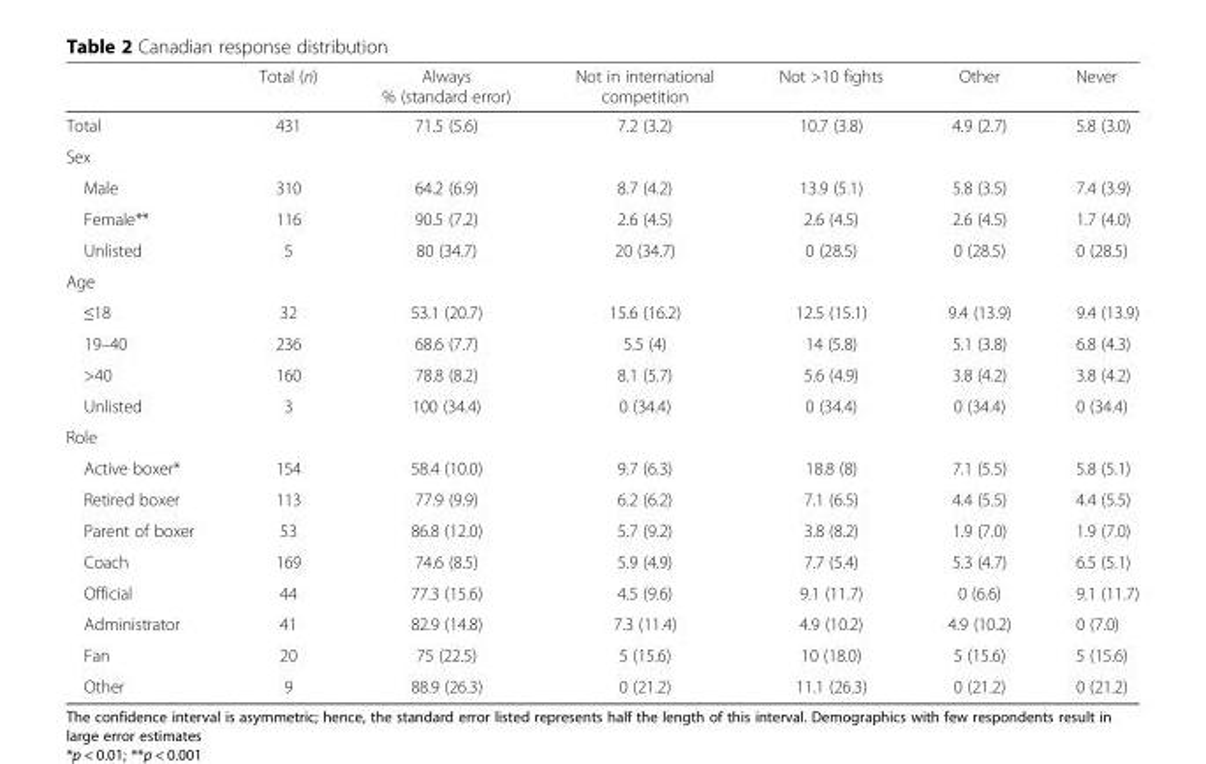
<table><thead><tr><td></td><td>Total (n)</td><td>Always % (standard error)</td><td>Not in international competition</td><td>Not &gt;10 fights</td><td>Other</td><td>Never</td></tr></thead><tbody><tr><td>Total</td><td>431</td><td>71.5 (5.6)</td><td>7.2 (3.2)</td><td>10.7 (3.8)</td><td>4.9 (2.7)</td><td>5.8 (3.0)</td></tr><tr><td colspan="7">Sex</td></tr><tr><td>Male</td><td>310</td><td>64.2 (6.9)</td><td>8.7 (4.2)</td><td>13.9 (5.1)</td><td>5.8 (3.5)</td><td>7.4 (3.9)</td></tr><tr><td>Female**</td><td>116</td><td>90.5 (7.2)</td><td>2.6 (4.5)</td><td>2.6 (4.5)</td><td>2.6 (4.5)</td><td>1.7 (4.0)</td></tr><tr><td>Unlisted</td><td>5</td><td>80 (34.7)</td><td>20 (34.7)</td><td>0 (28.5)</td><td>0 (28.5)</td><td>0 (28.5)</td></tr><tr><td colspan="7">Age</td></tr><tr><td>≤18</td><td>32</td><td>53.1 (20.7)</td><td>15.6 (16.2)</td><td>12.5 (15.1)</td><td>9.4 (13.9)</td><td>9.4 (13.9)</td></tr><tr><td>19–40</td><td>236</td><td>68.6 (7.7)</td><td>5.5 (4)</td><td>14 (5.8)</td><td>5.1 (3.8)</td><td>6.8 (4.3)</td></tr><tr><td>&gt;40</td><td>160</td><td>78.8 (8.2)</td><td>8.1 (5.7)</td><td>5.6 (4.9)</td><td>3.8 (4.2)</td><td>3.8 (4.2)</td></tr><tr><td>Unlisted</td><td>3</td><td>100 (34.4)</td><td>0 (34.4)</td><td>0 (34.4)</td><td>0 (34.4)</td><td>0 (34.4)</td></tr><tr><td colspan="7">Role</td></tr><tr><td>Active boxer*</td><td>154</td><td>58.4 (10.0)</td><td>9.7 (6.3)</td><td>18.8 (8)</td><td>7.1 (5.5)</td><td>5.8 (5.1)</td></tr><tr><td>Retired boxer</td><td>113</td><td>77.9 (9.9)</td><td>6.2 (6.2)</td><td>7.1 (6.5)</td><td>4.4 (5.5)</td><td>4.4 (5.5)</td></tr><tr><td>Parent of boxer</td><td>53</td><td>86.8 (12.0)</td><td>5.7 (9.2)</td><td>3.8 (8.2)</td><td>1.9 (7.0)</td><td>1.9 (7.0)</td></tr><tr><td>Coach</td><td>169</td><td>74.6 (8.5)</td><td>5.9 (4.9)</td><td>7.7 (5.4)</td><td>5.3 (4.7)</td><td>6.5 (5.1)</td></tr><tr><td>Official</td><td>44</td><td>77.3 (15.6)</td><td>4.5 (9.6)</td><td>9.1 (11.7)</td><td>0 (6.6)</td><td>9.1 (11.7)</td></tr><tr><td>Administrator</td><td>41</td><td>82.9 (14.8)</td><td>7.3 (11.4)</td><td>4.9 (10.2)</td><td>4.9 (10.2)</td><td>0 (7.0)</td></tr><tr><td>Fan</td><td>20</td><td>75 (22.5)</td><td>5 (15.6)</td><td>10 (18.0)</td><td>5 (15.6)</td><td>5 (15.6)</td></tr><tr><td>Other</td><td>9</td><td>88.9 (26.3)</td><td>0 (21.2)</td><td>11.1 (26.3)</td><td>0 (21.2)</td><td>0 (21.2)</td></tr></tbody></table>